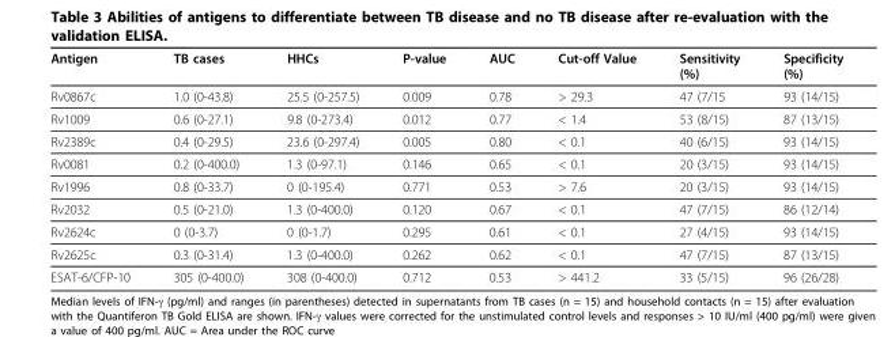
<table><thead><tr><td>Antigen</td><td>TB cases</td><td>HHCs</td><td>P-value</td><td>AUC</td><td>Cut-off Value</td><td>Sensitivity (%)</td><td>Specificity (%)</td></tr></thead><tbody><tr><td>Rv0867c</td><td>1.0 (0-43.8)</td><td>25.5 (0-257.5)</td><td>0.009</td><td>0.78</td><td>&gt; 29.3</td><td>47 (7/15</td><td>93 (14/15)</td></tr><tr><td>Rv1009</td><td>0.6 (0-27.1)</td><td>9.8 (0-273.4)</td><td>0.012</td><td>0.77</td><td>&lt; 1.4</td><td>53 (8/15)</td><td>87 (13/15)</td></tr><tr><td>Rv2389c</td><td>0.4 (0-29.5)</td><td>23.6 (0-297.4)</td><td>0.005</td><td>0.80</td><td>&lt; 0.1</td><td>40 (6/15)</td><td>93 (14/15)</td></tr><tr><td>Rv0081</td><td>0.2 (0-400.0)</td><td>1.3 (0-97.1)</td><td>0.146</td><td>0.65</td><td>&lt; 0.1</td><td>20 (3/15)</td><td>93 (14/15)</td></tr><tr><td>Rv1996</td><td>0.8 (0-33.7)</td><td>0 (0-195.4)</td><td>0.771</td><td>0.53</td><td>&gt; 7.6</td><td>20 (3/15)</td><td>93 (14/15)</td></tr><tr><td>Rv2032</td><td>0.5 (0-21.0)</td><td>1.3 (0-400.0)</td><td>0.120</td><td>0.67</td><td>&lt; 0.1</td><td>47 (7/15)</td><td>86 (12/14)</td></tr><tr><td>Rv2624c</td><td>0 (0-3.7)</td><td>0 (0-1.7)</td><td>0.295</td><td>0.61</td><td>&lt; 0.1</td><td>27 (4/15)</td><td>93 (14/15)</td></tr><tr><td>Rv2625c</td><td>0.3 (0-31.4)</td><td>1.3 (0-400.0)</td><td>0.262</td><td>0.62</td><td>&lt; 0.1</td><td>47 (7/15)</td><td>87 (13/15)</td></tr><tr><td>ESAT-6/CFP-10</td><td>305 (0-400.0)</td><td>308 (0-400.0)</td><td>0.712</td><td>0.53</td><td>&gt; 441.2</td><td>33 (5/15)</td><td>96 (26/28)</td></tr></tbody></table>